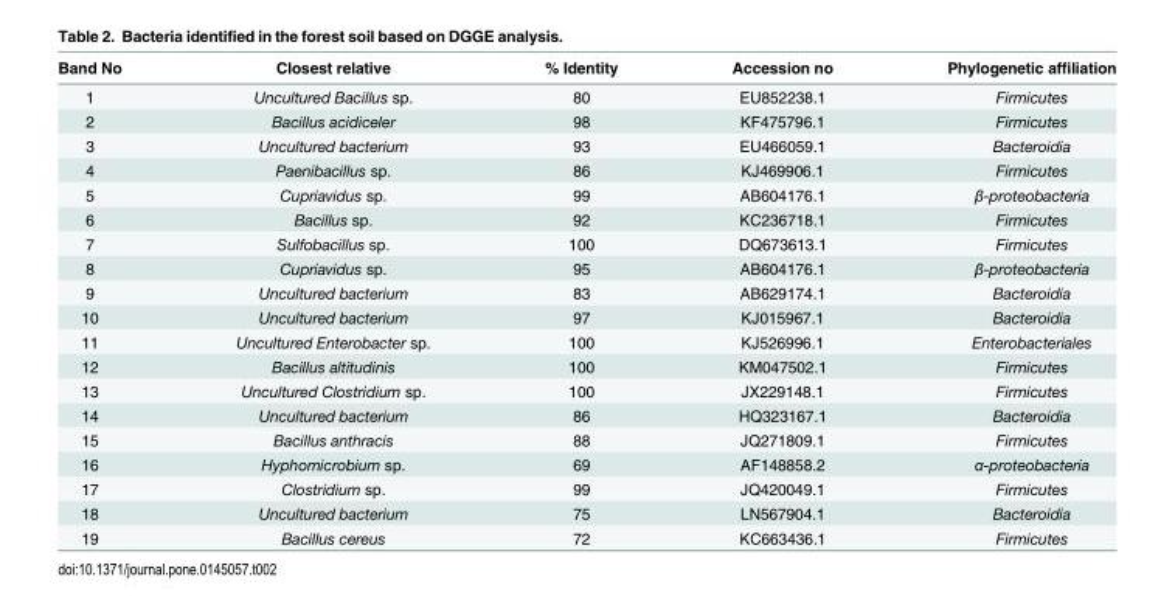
<table><thead><tr><td>Band No</td><td>Closest relative</td><td>% Identity</td><td>Accession no</td><td>Phylogenetic affiliation</td></tr></thead><tbody><tr><td>1</td><td>Uncultured Bacillus sp.</td><td>80</td><td>EU852238.1</td><td>Firmicutes</td></tr><tr><td>2</td><td>Bacillus acidiceler</td><td>98</td><td>KF475796.1</td><td>Firmicutes</td></tr><tr><td>3</td><td>Uncultured bacterium</td><td>93</td><td>EU466059.1</td><td>Bacteroidia</td></tr><tr><td>4</td><td>Paenibacillus sp.</td><td>86</td><td>KJ469906.1</td><td>Firmicutes</td></tr><tr><td>5</td><td>Cupriavidus sp.</td><td>99</td><td>AB604176.1</td><td>β-proteobacteria</td></tr><tr><td>6</td><td>Bacillus sp.</td><td>92</td><td>KC236718.1</td><td>Firmicutes</td></tr><tr><td>7</td><td>Sulfobacillus sp.</td><td>100</td><td>DQ673613.1</td><td>Firmicutes</td></tr><tr><td>8</td><td>Cupriavidus sp.</td><td>95</td><td>AB604176.1</td><td>β-proteobacteria</td></tr><tr><td>9</td><td>Uncultured bacterium</td><td>83</td><td>AB629174.1</td><td>Bacteroidia</td></tr><tr><td>10</td><td>Uncultured bacterium</td><td>97</td><td>KJ015967.1</td><td>Bacteroidia</td></tr><tr><td>11</td><td>Uncultured Enterobacter sp.</td><td>100</td><td>KJ526996.1</td><td>Enterobacteriales</td></tr><tr><td>12</td><td>Bacillus altitudinis</td><td>100</td><td>KM047502.1</td><td>Firmicutes</td></tr><tr><td>13</td><td>Uncultured Clostridium sp.</td><td>100</td><td>JX229148.1</td><td>Firmicutes</td></tr><tr><td>14</td><td>Uncultured bacterium</td><td>86</td><td>HQ323167.1</td><td>Bacteroidia</td></tr><tr><td>15</td><td>Bacillus anthracis</td><td>88</td><td>JQ271809.1</td><td>Firmicutes</td></tr><tr><td>16</td><td>Hyphomicrobium sp.</td><td>69</td><td>AF148858.2</td><td>α-proteobacteria</td></tr><tr><td>17</td><td>Clostridium sp.</td><td>99</td><td>JQ420049.1</td><td>Firmicutes</td></tr><tr><td>18</td><td>Uncultured bacterium</td><td>75</td><td>LN567904.1</td><td>Bacteroidia</td></tr><tr><td>19</td><td>Bacillus cereus</td><td>72</td><td>KC663436.1</td><td>Firmicutes</td></tr></tbody></table>